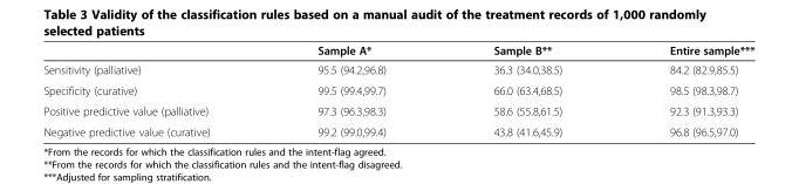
<table><thead><tr><td></td><td>Sample A*</td><td>Sample B**</td><td>Entire sample***</td></tr></thead><tbody><tr><td>Sensitivity (palliative)</td><td>95.5 (94.2,96.8)</td><td>36.3 (34.0,38.5)</td><td>84.2 (82.9,85.5)</td></tr><tr><td>Specificity (curative)</td><td>99.5 (99.4,99.7)</td><td>66.0 (63.4,68.5)</td><td>98.5 (98.3,98.7)</td></tr><tr><td>Positive predictive value (palliative)</td><td>97.3 (96.3,98.3)</td><td>58.6 (55.8,61.5)</td><td>92.3 (91.3,93.3)</td></tr><tr><td>Negative predictive value (curative)</td><td>99.2 (99.0,99.4)</td><td>43.8 (41.6,45.9)</td><td>96.8 (96.5,97.0)</td></tr></tbody></table>